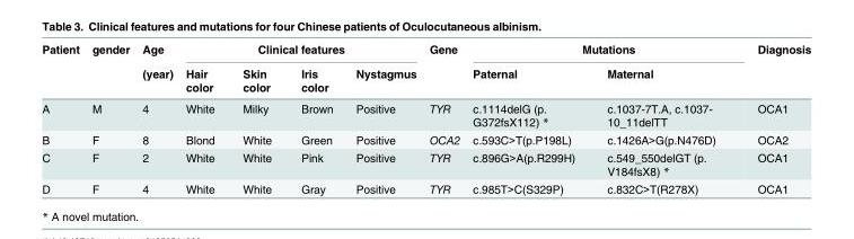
<table><thead><tr><td rowspan="2">Patient</td><td rowspan="2">gender</td><td rowspan="2">Age (year)</td><td colspan="4">Clinical features</td><td rowspan="2">Gene</td><td colspan="2">Mutations</td><td rowspan="2">Diagnosis</td></tr><tr><td>Hair color</td><td>Skin color</td><td>Iris color</td><td>Nystagmus</td><td>Paternal</td><td>Maternal</td></tr></thead><tbody><tr><td>A</td><td>M</td><td>4</td><td>White</td><td>Milky</td><td>Brown</td><td>Positive</td><td>TYR</td><td>c.1114delG (p. G372fsX112) *</td><td>c.1037-7T.A, c.1037- 10_11delTT</td><td>OCA1</td></tr><tr><td>B</td><td>F</td><td>8</td><td>Blond</td><td>White</td><td>Green</td><td>Positive</td><td>OCA2</td><td>c.593C&gt;T(p.P198L)</td><td>c.1426A&gt;G(p.N476D)</td><td>OCA2</td></tr><tr><td>C</td><td>F</td><td>2</td><td>White</td><td>White</td><td>Pink</td><td>Positive</td><td>TYR</td><td>c.896G&gt;A(p.R299H)</td><td>c.549_550delGT (p. V184fsX8) *</td><td>OCA1</td></tr><tr><td>D</td><td>F</td><td>4</td><td>White</td><td>White</td><td>Gray</td><td>Positive</td><td>TYR</td><td>c.985T&gt;C(S329P)</td><td>c.832C&gt;T(R278X)</td><td>OCA1</td></tr></tbody></table>